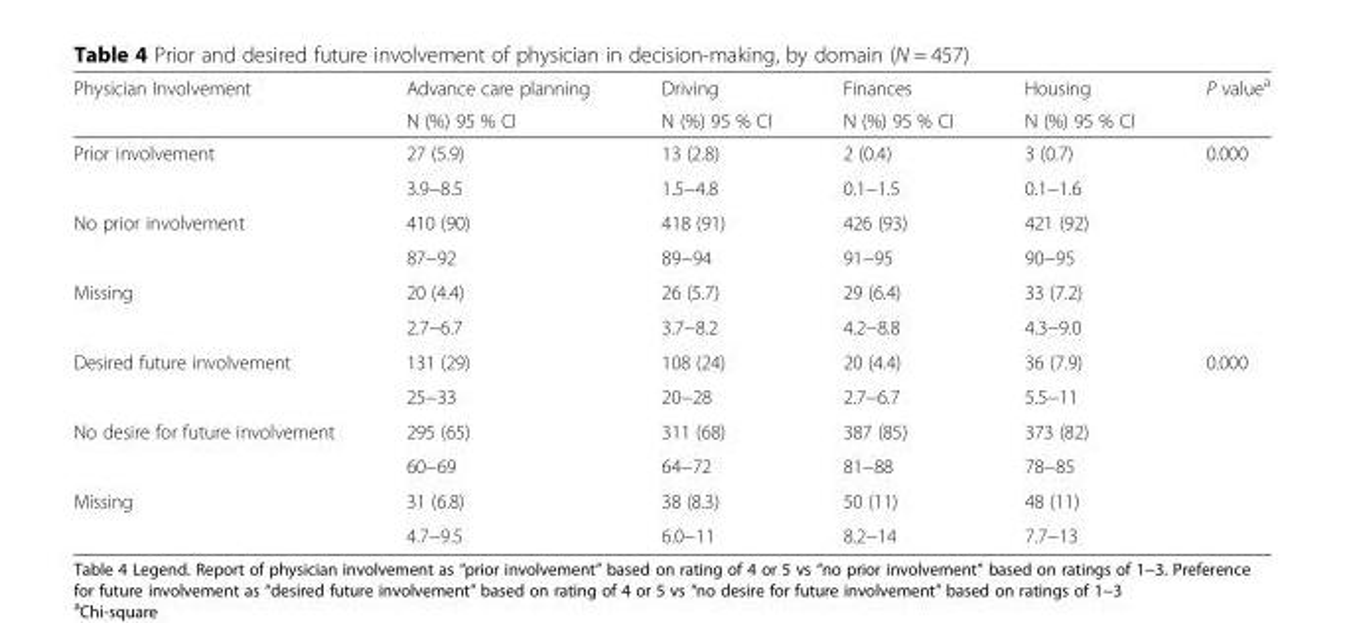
<table><thead><tr><td rowspan="2">Physician Involvement</td><td rowspan="2">Advance care planning N (%) 95 % CI</td><td rowspan="2">Driving N (%) 95 % CI</td><td rowspan="2">Finances N (%) 95 % CI</td><td rowspan="2">Housing N (%) 95 % CI</td><td rowspan="2">P value<sup>a</sup></td></tr><tr></tr></thead><tbody><tr><td rowspan="2">Prior involvement</td><td>27 (5.9)</td><td>13 (2.8)</td><td>2 (0.4)</td><td>3 (0.7)</td><td rowspan="6">0.000</td></tr><tr><td>3.9−8.5</td><td>1.5−4.8</td><td>0.1−1.5</td><td>0.1−1.6</td></tr><tr><td rowspan="2">No prior involvement</td><td>410 (90)</td><td>418 (91)</td><td>426 (93)</td><td>421 (92)</td></tr><tr><td>87−92</td><td>89−94</td><td>91−95</td><td>90−95</td></tr><tr><td rowspan="2">Missing</td><td>20 (4.4)</td><td>26 (5.7)</td><td>29 (6.4)</td><td>33 (7.2)</td></tr><tr><td>2.7−6.7</td><td>3.7−8.2</td><td>4.2−8.8</td><td>4.3−9.0</td></tr><tr><td rowspan="2">Desired future involvement</td><td>131 (29)</td><td>108 (24)</td><td>20 (4.4)</td><td>36 (7.9)</td><td rowspan="6">0.000</td></tr><tr><td>25−33</td><td>20−28</td><td>2.7−6.7</td><td>5.5−11</td></tr><tr><td rowspan="2">No desire for future involvement</td><td>295 (65)</td><td>311 (68)</td><td>387 (85)</td><td>373 (82)</td></tr><tr><td>60−69</td><td>64−72</td><td>81−88</td><td>78−85</td></tr><tr><td rowspan="2">Missing</td><td>31 (6.8)</td><td>38 (8.3)</td><td>50 (11)</td><td>48 (11)</td></tr><tr><td>4.7−9.5</td><td>6.0−11</td><td>8.2−14</td><td>7.7−13</td></tr></tbody></table>